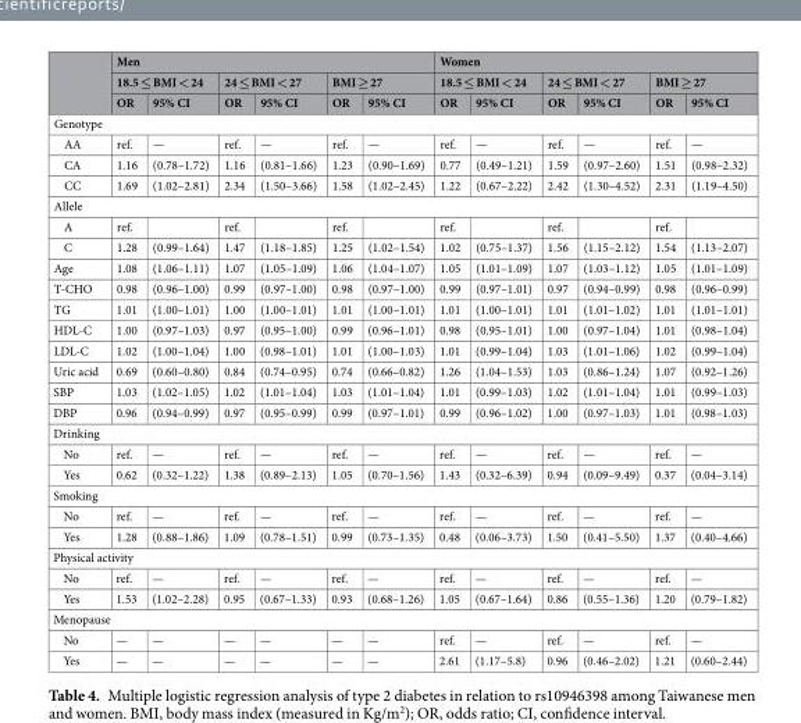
<table><thead><tr><td rowspan="3"></td><td colspan="6">Men</td><td colspan="6">Women</td></tr><tr><td colspan="2">18.5 ≤ BMI &lt; 24</td><td colspan="2">24 ≤ BMI &lt; 27</td><td colspan="2">BMI ≥ 27</td><td colspan="2">18.5 ≤ BMI &lt; 24</td><td colspan="2">24 ≤ BMI &lt; 27</td><td colspan="2">BMI ≥ 27</td></tr><tr><td>OR</td><td>95% CI</td><td>OR</td><td>95% CI</td><td>OR</td><td>95% CI</td><td>OR</td><td>95% CI</td><td>OR</td><td>95% CI</td><td>OR</td><td>95% CI</td></tr></thead><tbody><tr><td colspan="13">Genotype</td></tr><tr><td>AA</td><td>ref.</td><td>—</td><td>ref.</td><td>—</td><td>ref.</td><td>—</td><td>ref.</td><td>—</td><td>ref.</td><td>—</td><td>ref.</td><td>—</td></tr><tr><td>CA</td><td>1.16</td><td>(0.78–1.72)</td><td>1.16</td><td>(0.81–1.66)</td><td>1.23</td><td>(0.90–1.69)</td><td>0.77</td><td>(0.49–1.21)</td><td>1.59</td><td>(0.97–2.60)</td><td>1.51</td><td>(0.98–2.32)</td></tr><tr><td>CC</td><td>1.69</td><td>(1.02–2.81)</td><td>2.34</td><td>(1.50–3.66)</td><td>1.58</td><td>(1.02–2.45)</td><td>1.22</td><td>(0.67–2.22)</td><td>2.42</td><td>(1.30–4.52)</td><td>2.31</td><td>(1.19–4.50)</td></tr><tr><td colspan="13">Allele</td></tr><tr><td>A</td><td>ref.</td><td></td><td>ref.</td><td></td><td>ref.</td><td></td><td>ref.</td><td></td><td>ref.</td><td></td><td>ref.</td><td></td></tr><tr><td>C</td><td>1.28</td><td>(0.99–1.64)</td><td>1.47</td><td>(1.18–1.85)</td><td>1.25</td><td>(1.02–1.54)</td><td>1.02</td><td>(0.75–1.37)</td><td>1.56</td><td>(1.15–2.12)</td><td>1.54</td><td>(1.13–2.07)</td></tr><tr><td>Age</td><td>1.08</td><td>(1.06–1.11)</td><td>1.07</td><td>(1.05–1.09)</td><td>1.06</td><td>(1.04–1.07)</td><td>1.05</td><td>(1.01–1.09)</td><td>1.07</td><td>(1.03–1.12)</td><td>1.05</td><td>(1.01–1.09)</td></tr><tr><td>T-CHO</td><td>0.98</td><td>(0.96–1.00)</td><td>0.99</td><td>(0.97–1.00)</td><td>0.98</td><td>(0.97–1.00)</td><td>0.99</td><td>(0.97–1.01)</td><td>0.97</td><td>(0.94–0.99)</td><td>0.98</td><td>(0.96–0.99)</td></tr><tr><td>TG</td><td>1.01</td><td>(1.00–1.01)</td><td>1.00</td><td>(1.00–1.01)</td><td>1.01</td><td>(1.00–1.01)</td><td>1.01</td><td>(1.00–1.01)</td><td>1.01</td><td>(1.01–1.02)</td><td>1.01</td><td>(1.01–1.01)</td></tr><tr><td>HDL-C</td><td>1.00</td><td>(0.97–1.03)</td><td>0.97</td><td>(0.95–1.00)</td><td>0.99</td><td>(0.96–1.01)</td><td>0.98</td><td>(0.95–1.01)</td><td>1.00</td><td>(0.97–1.04)</td><td>1.01</td><td>(0.98–1.04)</td></tr><tr><td>LDL-C</td><td>1.02</td><td>(1.00–1.04)</td><td>1.00</td><td>(0.98–1.01)</td><td>1.01</td><td>(1.00–1.03)</td><td>1.01</td><td>(0.99–1.04)</td><td>1.03</td><td>(1.01–1.06)</td><td>1.02</td><td>(0.99–1.04)</td></tr><tr><td>Uric acid</td><td>0.69</td><td>(0.60–0.80)</td><td>0.84</td><td>(0.74–0.95)</td><td>0.74</td><td>(0.66–0.82)</td><td>1.26</td><td>(1.04–1.53)</td><td>1.03</td><td>(0.86–1.24)</td><td>1.07</td><td>(0.92–1.26)</td></tr><tr><td>SBP</td><td>1.03</td><td>(1.02–1.05)</td><td>1.02</td><td>(1.01–1.04)</td><td>1.03</td><td>(1.01–1.04)</td><td>1.01</td><td>(0.99–1.03)</td><td>1.02</td><td>(1.01–1.04)</td><td>1.01</td><td>(0.99–1.03)</td></tr><tr><td>DBP</td><td>0.96</td><td>(0.94–0.99)</td><td>0.97</td><td>(0.95–0.99)</td><td>0.99</td><td>(0.97–1.01)</td><td>0.99</td><td>(0.96–1.02)</td><td>1.00</td><td>(0.97–1.03)</td><td>1.01</td><td>(0.98–1.03)</td></tr><tr><td colspan="13">Drinking</td></tr><tr><td>No</td><td>ref.</td><td>—</td><td>ref.</td><td>—</td><td>ref.</td><td>—</td><td>ref.</td><td>—</td><td>ref.</td><td>—</td><td>ref.</td><td>—</td></tr><tr><td>Yes</td><td>0.62</td><td>(0.32–1.22)</td><td>1.38</td><td>(0.89–2.13)</td><td>1.05</td><td>(0.70–1.56)</td><td>1.43</td><td>(0.32–6.39)</td><td>0.94</td><td>(0.09–9.49)</td><td>0.37</td><td>(0.04–3.14)</td></tr><tr><td colspan="13">Smoking</td></tr><tr><td>No</td><td>ref.</td><td>—</td><td>ref.</td><td>—</td><td>ref.</td><td>—</td><td>ref.</td><td>—</td><td>ref.</td><td>—</td><td>ref.</td><td>—</td></tr><tr><td>Yes</td><td>1.28</td><td>(0.88–1.86)</td><td>1.09</td><td>(0.78–1.51)</td><td>0.99</td><td>(0.73–1.35)</td><td>0.48</td><td>(0.06–3.73)</td><td>1.50</td><td>(0.41–5.50)</td><td>1.37</td><td>(0.40–4.66)</td></tr><tr><td colspan="13">Physical activity</td></tr><tr><td>No</td><td>ref.</td><td>—</td><td>ref.</td><td>—</td><td>ref.</td><td>—</td><td>ref.</td><td>—</td><td>ref.</td><td>—</td><td>ref.</td><td>—</td></tr><tr><td>Yes</td><td>1.53</td><td>(1.02–2.28)</td><td>0.95</td><td>(0.67–1.33)</td><td>0.93</td><td>(0.68–1.26)</td><td>1.05</td><td>(0.67–1.64)</td><td>0.86</td><td>(0.55–1.36)</td><td>1.20</td><td>(0.79–1.82)</td></tr><tr><td colspan="13">Menopause</td></tr><tr><td>No</td><td>—</td><td>—</td><td>—</td><td>—</td><td>—</td><td>—</td><td>ref.</td><td>—</td><td>ref.</td><td>—</td><td>ref.</td><td>—</td></tr><tr><td>Yes</td><td>—</td><td>—</td><td>—</td><td>—</td><td>—</td><td>—</td><td>2.61</td><td>(1.17–5.8)</td><td>0.96</td><td>(0.46–2.02)</td><td>1.21</td><td>(0.60–2.44)</td></tr></tbody></table>